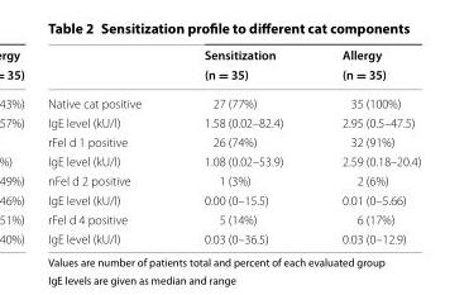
<table><thead><tr><td rowspan="2"></td><td rowspan="2">Sensitization (n = 35)</td><td rowspan="2">Allergy (n = 35)</td></tr><tr></tr></thead><tbody><tr><td>Native cat positive</td><td>27 (77%)</td><td>35 (100%)</td></tr><tr><td>IgE level (kU/l)</td><td>1.58 (0.02–82.4)</td><td>2.95 (0.5–47.5)</td></tr><tr><td>rFel d 1 positive</td><td>26 (74%)</td><td>32 (91%)</td></tr><tr><td>IgE level (kU/l)</td><td>1.08 (0.02–53.9)</td><td>2.59 (0.18–20.4)</td></tr><tr><td>nFel d 2 positive</td><td>1 (3%)</td><td>2 (6%)</td></tr><tr><td>IgE level (kU/l)</td><td>0.00 (0–15.5)</td><td>0.01 (0–5.66)</td></tr><tr><td>rFel d 4 positive</td><td>5 (14%)</td><td>6 (17%)</td></tr><tr><td>IgE level (kU/l)</td><td>0.03 (0–36.5)</td><td>0.03 (0–12.9)</td></tr></tbody></table>